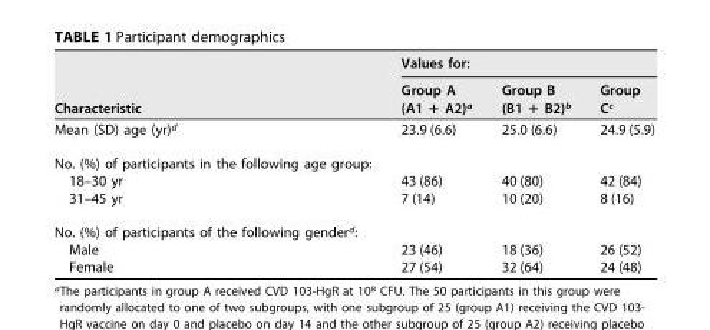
<table><thead><tr><td rowspan="2">Characteristic</td><td colspan="3">Values for:</td></tr><tr><td>Group A (A1 + A2)<sup>a</sup></td><td>Group B (B1 + B2)<sup>b</sup></td><td>Group C<sup>c</sup></td></tr></thead><tbody><tr><td>Mean (SD) age (yr)<sup>d</sup></td><td>23.9 (6.6)</td><td>25.0 (6.6)</td><td>24.9 (5.9)</td></tr><tr><td colspan="4">No. (%) of participants in the following age group:</td></tr><tr><td>18–30 yr</td><td>43 (86)</td><td>40 (80)</td><td>42 (84)</td></tr><tr><td>31–45 yr</td><td>7 (14)</td><td>10 (20)</td><td>8 (16)</td></tr><tr><td colspan="4">No. (%) of participants of the following gender<sup>d</sup>:</td></tr><tr><td>Male</td><td>23 (46)</td><td>18 (36)</td><td>26 (52)</td></tr><tr><td>Female</td><td>27 (54)</td><td>32 (64)</td><td>24 (48)</td></tr></tbody></table>